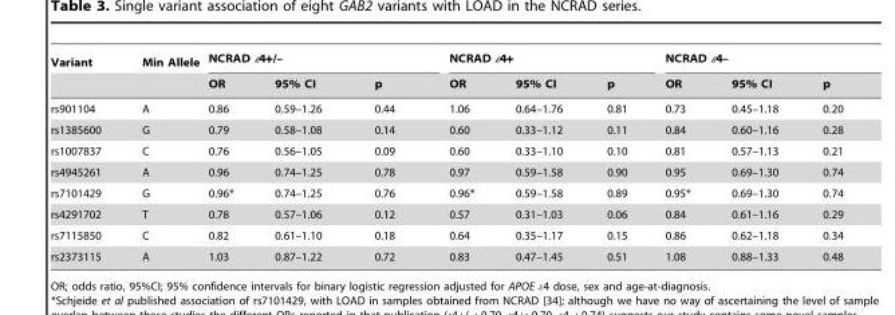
<table><thead><tr><td rowspan="2">Variant</td><td rowspan="2">Min Allele</td><td colspan="3">NCRAD ε4+/–</td><td colspan="3">NCRAD ε4+</td><td colspan="3">NCRAD ε4–</td></tr><tr><td>OR</td><td>95% CI</td><td>p</td><td>OR</td><td>95% CI</td><td>p</td><td>OR</td><td>95% CI</td><td>p</td></tr></thead><tbody><tr><td>rs901104</td><td>A</td><td>0.86</td><td>0.59–1.26</td><td>0.44</td><td>1.06</td><td>0.64–1.76</td><td>0.81</td><td>0.73</td><td>0.45–1.18</td><td>0.20</td></tr><tr><td>rs1385600</td><td>G</td><td>0.79</td><td>0.58–1.08</td><td>0.14</td><td>0.60</td><td>0.33–1.12</td><td>0.11</td><td>0.84</td><td>0.60–1.16</td><td>0.28</td></tr><tr><td>rs1007837</td><td>C</td><td>0.76</td><td>0.56–1.05</td><td>0.09</td><td>0.60</td><td>0.33–1.10</td><td>0.10</td><td>0.81</td><td>0.57–1.13</td><td>0.21</td></tr><tr><td>rs4945261</td><td>A</td><td>0.96</td><td>0.74–1.25</td><td>0.78</td><td>0.97</td><td>0.59–1.58</td><td>0.90</td><td>0.95</td><td>0.69–1.30</td><td>0.74</td></tr><tr><td>rs7101429</td><td>G</td><td>0.96*</td><td>0.74–1.25</td><td>0.76</td><td>0.96*</td><td>0.59–1.58</td><td>0.89</td><td>0.95*</td><td>0.69–1.30</td><td>0.74</td></tr><tr><td>rs4291702</td><td>T</td><td>0.78</td><td>0.57–1.06</td><td>0.12</td><td>0.57</td><td>0.31–1.03</td><td>0.06</td><td>0.84</td><td>0.61–1.16</td><td>0.29</td></tr><tr><td>rs7115850</td><td>C</td><td>0.82</td><td>0.61–1.10</td><td>0.18</td><td>0.64</td><td>0.35–1.17</td><td>0.15</td><td>0.86</td><td>0.62–1.18</td><td>0.34</td></tr><tr><td>rs2373115</td><td>A</td><td>1.03</td><td>0.87–1.22</td><td>0.72</td><td>0.83</td><td>0.47–1.45</td><td>0.51</td><td>1.08</td><td>0.88–1.33</td><td>0.48</td></tr></tbody></table>